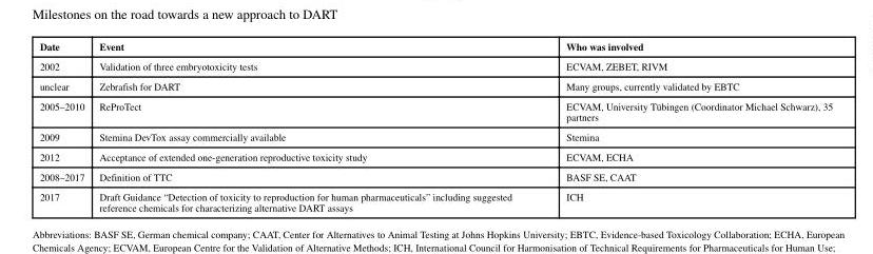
<table><thead><tr><td>Date</td><td>Event</td><td>Who was involved</td></tr></thead><tbody><tr><td>2002</td><td>Validation of three embryotoxicity tests</td><td>ECVAM, ZEBET, RIVM</td></tr><tr><td>unclear</td><td>Zebrafish for DART</td><td>Many groups, currently validated by EBTC</td></tr><tr><td>2005–2010</td><td>ReProTect</td><td>ECVAM, University Tübingen (Coordinator Michael Schwarz), 35 partners</td></tr><tr><td>2009</td><td>Stemina DevTox assay commercially available</td><td>Stemina</td></tr><tr><td>2012</td><td>Acceptance of extended one-generation reproductive toxicity study</td><td>ECVAM, ECHA</td></tr><tr><td>2008–2017</td><td>Definition of TTC</td><td>BASF SE, CAAT</td></tr><tr><td>2017</td><td>Draft Guidance “Detection of toxicity to reproduction for human pharmaceuticals” including suggested reference chemicals for characterizing alternative DART assays</td><td>ICH</td></tr></tbody></table>